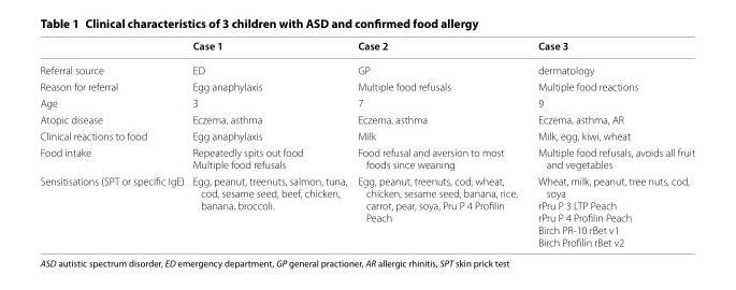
<table><thead><tr><td></td><td>Case 1</td><td>Case 2</td><td>Case 3</td></tr></thead><tbody><tr><td>Referral source</td><td>ED</td><td>GP</td><td>dermatology</td></tr><tr><td>Reason for referral</td><td>Egg anaphylaxis</td><td>Multiple food refusals</td><td>Multiple food reactions</td></tr><tr><td>Age</td><td>3</td><td>7</td><td>9</td></tr><tr><td>Atopic disease</td><td>Eczema, asthma</td><td>Eczema, asthma</td><td>Eczema, asthma, AR</td></tr><tr><td>Clinical reactions to food</td><td>Egg anaphylaxis</td><td>Milk</td><td>Milk, egg, kiwi, wheat</td></tr><tr><td>Food intake</td><td>Repeatedly spits out food Multiple food refusals</td><td>Food refusal and aversion to most foods since weaning</td><td>Multiple food refusals, avoids all fruit and vegetables</td></tr><tr><td>Sensitisations (SPT or specific IgE)</td><td>Egg, peanut, treenuts, salmon, tuna, cod, sesame seed, beef, chicken, banana, broccoli.</td><td>Egg, peanut, treenuts, cod, wheat, chicken, sesame seed, banana, rice, carrot, pear, soya, Pru P 4 Profilin Peach</td><td>Wheat, milk, peanut, tree nuts, cod, soya rPru P 3 LTP Peach rPru P 4 Profilin Peach Birch PR-10 rBet v1 Birch Profilin rBet v2</td></tr></tbody></table>